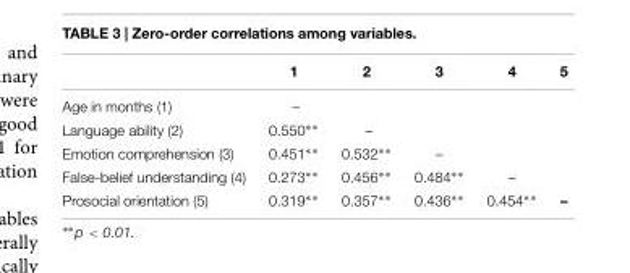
<table><thead><tr><td></td><td>1</td><td>2</td><td>3</td><td>4</td><td>5</td></tr></thead><tbody><tr><td>Age in months (1)</td><td>–</td><td></td><td></td><td></td><td></td></tr><tr><td>Language ability (2)</td><td>0.550∗∗</td><td>–</td><td></td><td></td><td></td></tr><tr><td>Emotion comprehension (3)</td><td>0.451∗∗</td><td>0.532∗∗</td><td>–</td><td></td><td></td></tr><tr><td>False-belief understanding (4)</td><td>0.273∗∗</td><td>0.456∗∗</td><td>0.484∗∗</td><td>–</td><td></td></tr><tr><td>Prosocial orientation (5)</td><td>0.319∗∗</td><td>0.357∗∗</td><td>0.436∗∗</td><td>0.454∗∗</td><td>–</td></tr></tbody></table>